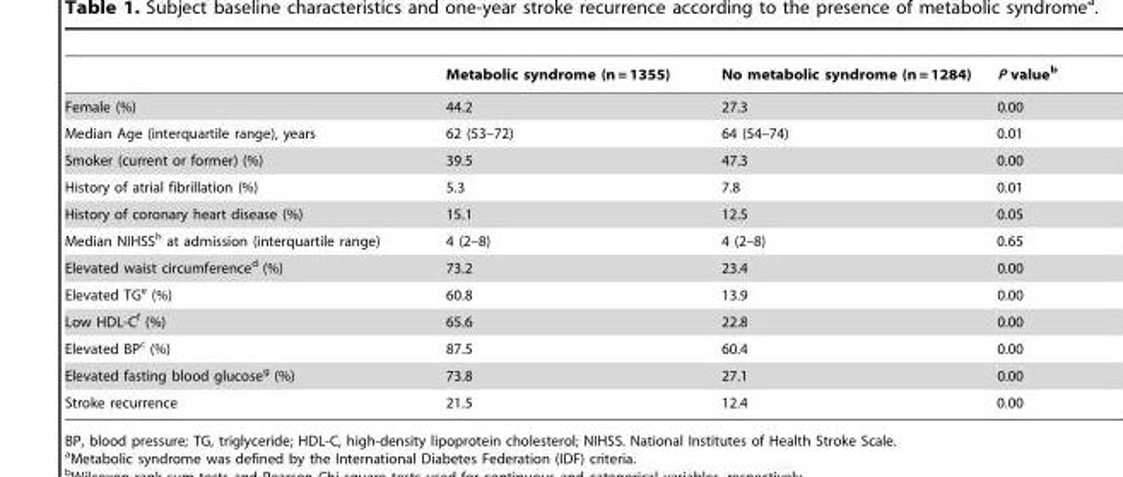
<table><thead><tr><td></td><td>Metabolic syndrome (n = 1355)</td><td>No metabolic syndrome (n = 1284)</td><td>P value<sup>b</sup></td></tr></thead><tbody><tr><td>Female (%)</td><td>44.2</td><td>27.3</td><td>0.00</td></tr><tr><td>Median Age (interquartile range), years</td><td>62 (53–72)</td><td>64 (54–74)</td><td>0.01</td></tr><tr><td>Smoker (current or former) (%)</td><td>39.5</td><td>47.3</td><td>0.00</td></tr><tr><td>History of atrial fibrillation (%)</td><td>5.3</td><td>7.8</td><td>0.01</td></tr><tr><td>History of coronary heart disease (%)</td><td>15.1</td><td>12.5</td><td>0.05</td></tr><tr><td>Median NIHSS<sup>h</sup> at admission (interquartile range)</td><td>4 (2–8)</td><td>4 (2–8)</td><td>0.65</td></tr><tr><td>Elevated waist circumference<sup>d</sup> (%)</td><td>73.2</td><td>23.4</td><td>0.00</td></tr><tr><td>Elevated TG<sup>e</sup> (%)</td><td>60.8</td><td>13.9</td><td>0.00</td></tr><tr><td>Low HDL-C<sup>f</sup> (%)</td><td>65.6</td><td>22.8</td><td>0.00</td></tr><tr><td>Elevated BP<sup>c</sup> (%)</td><td>87.5</td><td>60.4</td><td>0.00</td></tr><tr><td>Elevated fasting blood glucose<sup>g</sup> (%)</td><td>73.8</td><td>27.1</td><td>0.00</td></tr><tr><td>Stroke recurrence</td><td>21.5</td><td>12.4</td><td>0.00</td></tr></tbody></table>